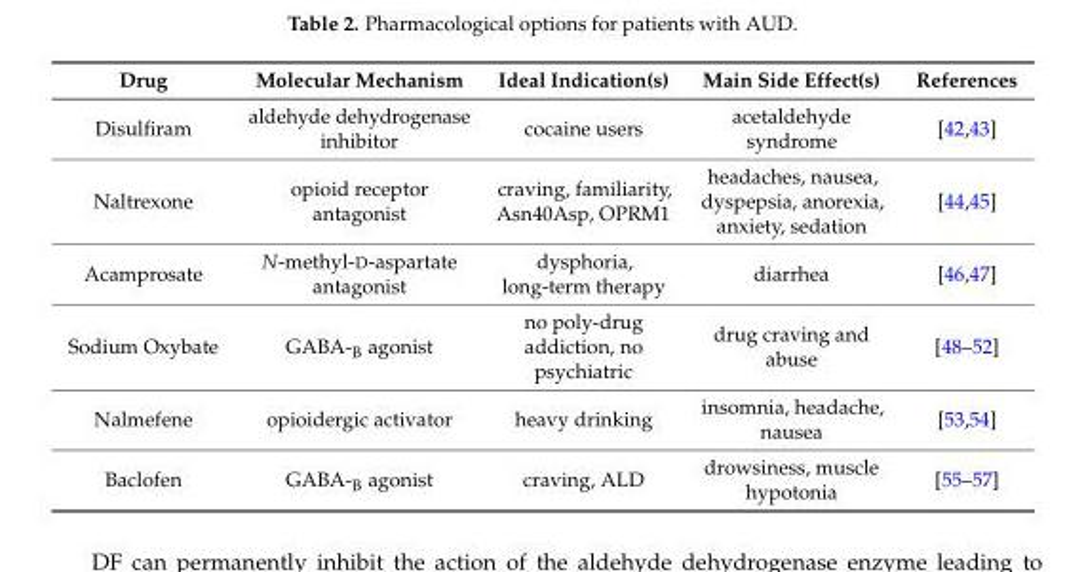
<table><thead><tr><td>Drug</td><td>Molecular Mechanism</td><td>Ideal Indication(s)</td><td>Main Side Effect(s)</td><td>References</td></tr></thead><tbody><tr><td>Disulfiram</td><td>aldehyde dehydrogenase inhibitor</td><td>cocaine users</td><td>acetaldehyde syndrome</td><td>[42,43]</td></tr><tr><td>Naltrexone</td><td>opioid receptor antagonist</td><td>craving, familiarity, Asn40Asp, OPRM1</td><td>headaches, nausea, dyspepsia, anorexia, anxiety, sedation</td><td>[44,45]</td></tr><tr><td>Acamprosate</td><td>N-methyl-D-aspartate antagonist</td><td>dysphoria, long-term therapy</td><td>diarrhea</td><td>[46,47]</td></tr><tr><td>Sodium Oxybate</td><td>GABA-<sub>B</sub> agonist</td><td>no poly-drug addiction, no psychiatric</td><td>drug craving and abuse</td><td>[48–52]</td></tr><tr><td>Nalmefene</td><td>opioidergic activator</td><td>heavy drinking</td><td>insomnia, headache, nausea</td><td>[53,54]</td></tr><tr><td>Baclofen</td><td>GABA-<sub>B</sub> agonist</td><td>craving, ALD</td><td>drowsiness, muscle hypotonia</td><td>[55–57]</td></tr></tbody></table>